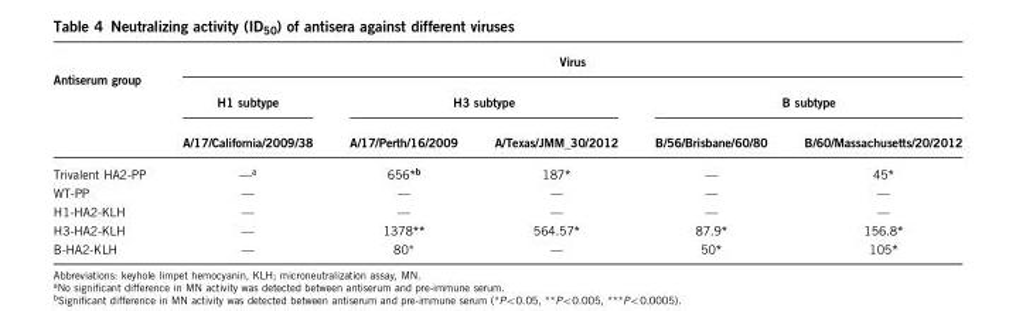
<table><thead><tr><td rowspan="3">Antiserum group</td><td colspan="5">Virus</td></tr><tr><td rowspan="2">H1 subtype A/17/California/2009/38</td><td colspan="2">H3 subtype</td><td colspan="2">B subtype</td></tr><tr><td>A/17/Perth/16/2009</td><td>A/Texas/JMM_30/2012</td><td>B/56/Brisbane/60/80</td><td>B/60/Massachusetts/20/2012</td></tr></thead><tbody><tr><td>Trivalent HA2-PP</td><td>—a</td><td>656*<sup>b</sup></td><td>187*</td><td>—</td><td>45*</td></tr><tr><td>WT-PP</td><td>—</td><td>—</td><td>—</td><td>—</td><td>—</td></tr><tr><td>H1-HA2-KLH</td><td>—</td><td>—</td><td>—</td><td>—</td><td>—</td></tr><tr><td>H3-HA2-KLH</td><td>—</td><td>1378**</td><td>564.57*</td><td>87.9*</td><td>156.8*</td></tr><tr><td>B-HA2-KLH</td><td>—</td><td>80*</td><td>—</td><td>50*</td><td>105*</td></tr></tbody></table>